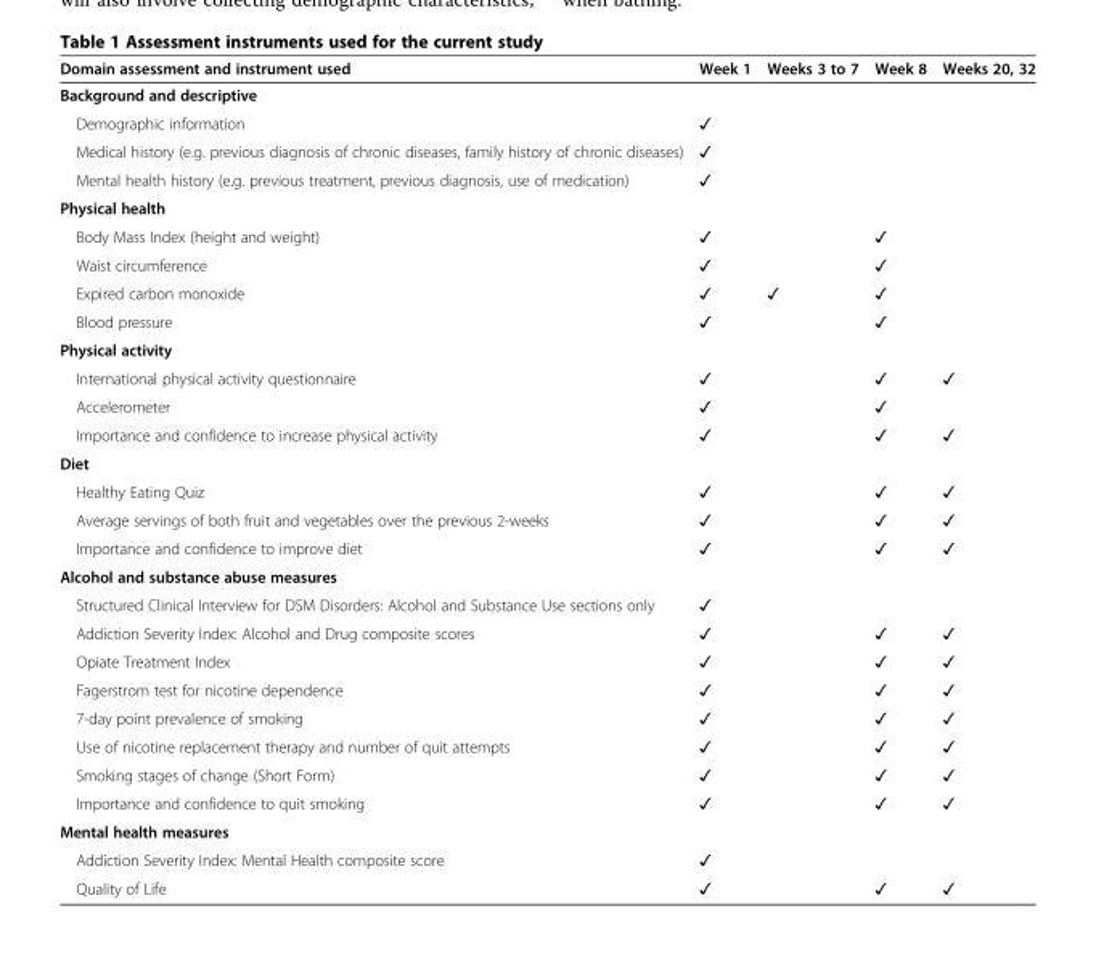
<table><thead><tr><td>Domain assessment and instrument used</td><td>Week 1</td><td>Weeks 3 to 7</td><td>Week 8</td><td>Weeks 20, 32</td></tr></thead><tbody><tr><td colspan="5">Background and descriptive</td></tr><tr><td>Demographic information</td><td>✓</td><td></td><td></td><td></td></tr><tr><td>Medical history (e.g. previous diagnosis of chronic diseases, family history of chronic diseases)</td><td>✓</td><td></td><td></td><td></td></tr><tr><td>Mental health history (e.g. previous treatment, previous diagnosis, use of medication)</td><td>✓</td><td></td><td></td><td></td></tr><tr><td colspan="5">Physical health</td></tr><tr><td>Body Mass Index (height and weight)</td><td>✓</td><td></td><td>✓</td><td></td></tr><tr><td>Waist circumference</td><td>✓</td><td></td><td>✓</td><td></td></tr><tr><td>Expired carbon monoxide</td><td>✓</td><td>✓</td><td>✓</td><td></td></tr><tr><td>Blood pressure</td><td>✓</td><td></td><td>✓</td><td></td></tr><tr><td colspan="5">Physical activity</td></tr><tr><td>International physical activity questionnaire</td><td>✓</td><td></td><td>✓</td><td>✓</td></tr><tr><td>Accelerometer</td><td>✓</td><td></td><td>✓</td><td></td></tr><tr><td>Importance and confidence to increase physical activity</td><td>✓</td><td></td><td>✓</td><td>✓</td></tr><tr><td colspan="5">Diet</td></tr><tr><td>Healthy Eating Quiz</td><td>✓</td><td></td><td>✓</td><td>✓</td></tr><tr><td>Average servings of both fruit and vegetables over the previous 2-weeks</td><td>✓</td><td></td><td>✓</td><td>✓</td></tr><tr><td>Importance and confidence to improve diet</td><td>✓</td><td></td><td>✓</td><td>✓</td></tr><tr><td colspan="5">Alcohol and substance abuse measures</td></tr><tr><td>Structured Clinical Interview for DSM Disorders: Alcohol and Substance Use sections only</td><td>✓</td><td></td><td></td><td></td></tr><tr><td>Addiction Severity Index: Alcohol and Drug composite scores</td><td>✓</td><td></td><td>✓</td><td>✓</td></tr><tr><td>Opiate Treatment Index</td><td>✓</td><td></td><td>✓</td><td>✓</td></tr><tr><td>Fagerstrom test for nicotine dependence</td><td>✓</td><td></td><td>✓</td><td>✓</td></tr><tr><td>7-day point prevalence of smoking</td><td>✓</td><td></td><td>✓</td><td>✓</td></tr><tr><td>Use of nicotine replacement therapy and number of quit attempts</td><td>✓</td><td></td><td>✓</td><td>✓</td></tr><tr><td>Smoking stages of change (Short Form)</td><td>✓</td><td></td><td>✓</td><td>✓</td></tr><tr><td>Importance and confidence to quit smoking</td><td>✓</td><td></td><td>✓</td><td>✓</td></tr><tr><td colspan="5">Mental health measures</td></tr><tr><td>Addiction Severity Index: Mental Health composite score</td><td>✓</td><td></td><td></td><td></td></tr><tr><td>Quality of Life</td><td>✓</td><td></td><td>✓</td><td>✓</td></tr></tbody></table>